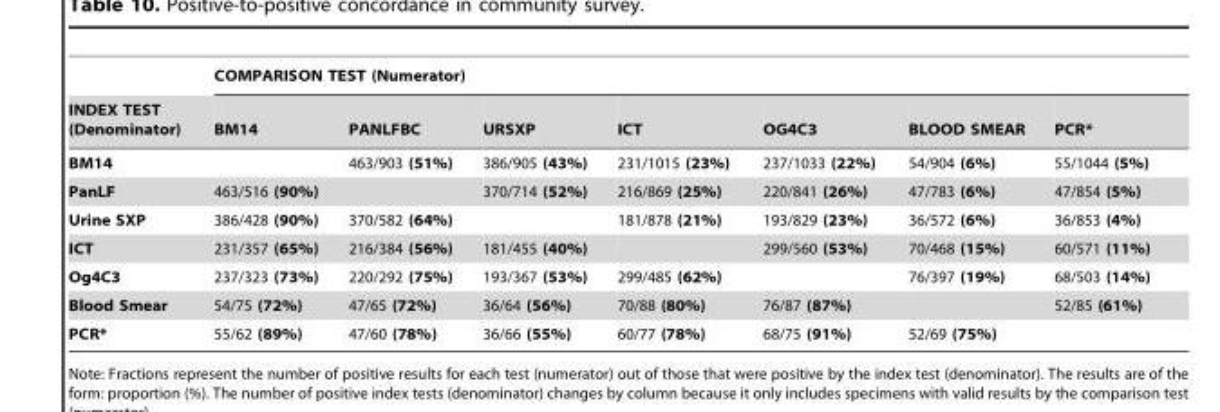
<table><thead><tr><td rowspan="2">INDEX TEST (Denominator)</td><td colspan="7">COMPARISON TEST (Numerator)</td></tr><tr><td>BM14</td><td>PANLFBC</td><td>URSXP</td><td>ICT</td><td>OG4C3</td><td>BLOOD SMEAR</td><td>PCR*</td></tr></thead><tbody><tr><td>BM14</td><td></td><td>463/903 (51%)</td><td>386/905 (43%)</td><td>231/1015 (23%)</td><td>237/1033 (22%)</td><td>54/904 (6%)</td><td>55/1044 (5%)</td></tr><tr><td>PanLF</td><td>463/516 (90%)</td><td></td><td>370/714 (52%)</td><td>216/869 (25%)</td><td>220/841 (26%)</td><td>47/783 (6%)</td><td>47/854 (5%)</td></tr><tr><td>Urine SXP</td><td>386/428 (90%)</td><td>370/582 (64%)</td><td></td><td>181/878 (21%)</td><td>193/829 (23%)</td><td>36/572 (6%)</td><td>36/853 (4%)</td></tr><tr><td>ICT</td><td>231/357 (65%)</td><td>216/384 (56%)</td><td>181/455 (40%)</td><td></td><td>299/560 (53%)</td><td>70/468 (15%)</td><td>60/571 (11%)</td></tr><tr><td>Og4C3</td><td>237/323 (73%)</td><td>220/292 (75%)</td><td>193/367 (53%)</td><td>299/485 (62%)</td><td></td><td>76/397 (19%)</td><td>68/503 (14%)</td></tr><tr><td>Blood Smear</td><td>54/75 (72%)</td><td>47/65 (72%)</td><td>36/64 (56%)</td><td>70/88 (80%)</td><td>76/87 (87%)</td><td></td><td>52/85 (61%)</td></tr><tr><td>PCR*</td><td>55/62 (89%)</td><td>47/60 (78%)</td><td>36/66 (55%)</td><td>60/77 (78%)</td><td>68/75 (91%)</td><td>52/69 (75%)</td><td></td></tr></tbody></table>